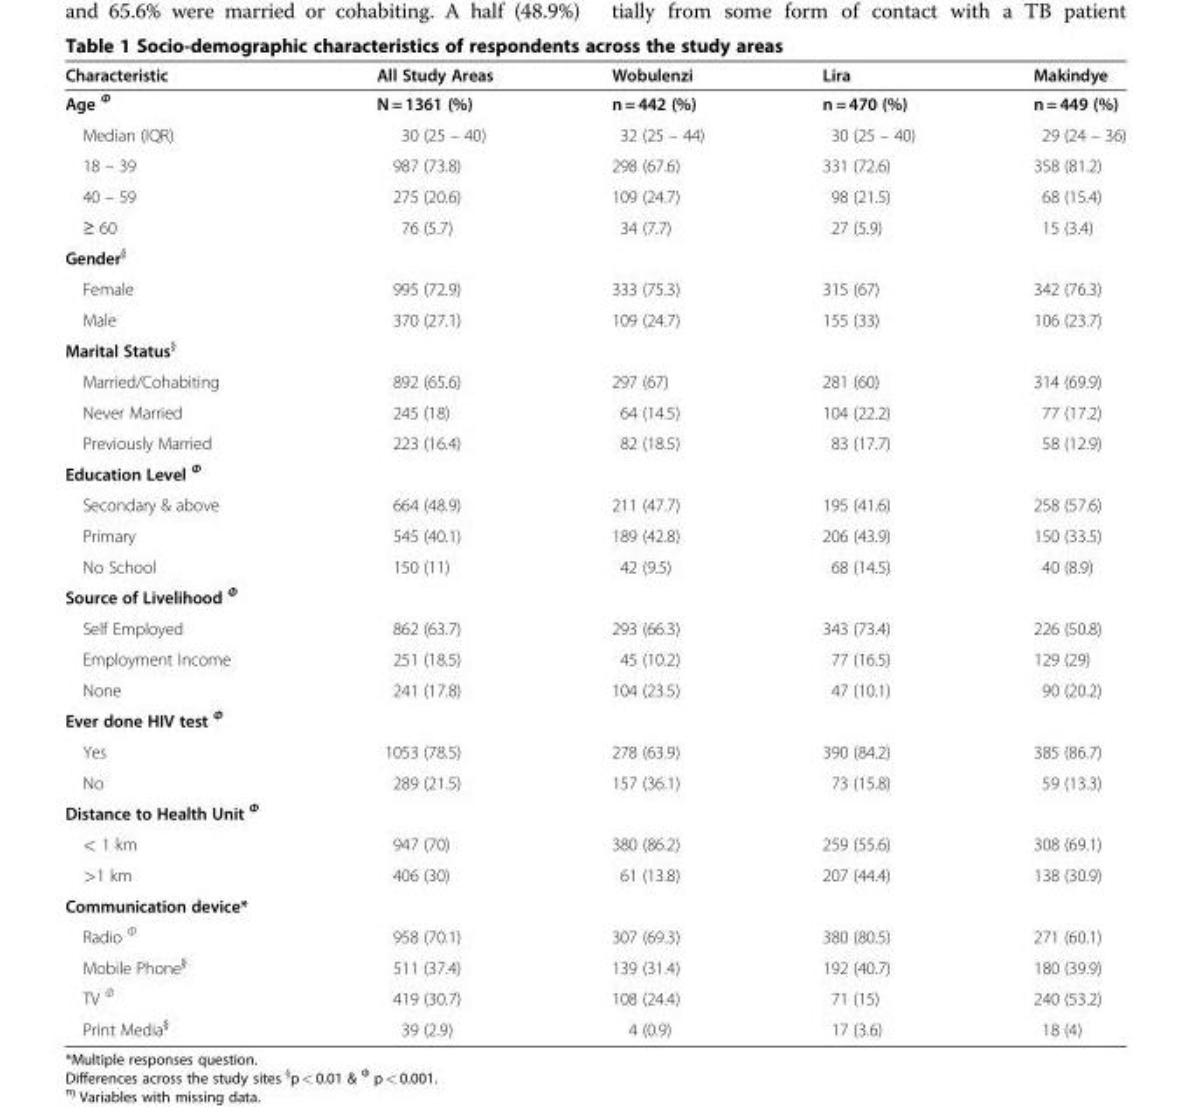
<table><thead><tr><td>Characteristic</td><td>All Study Areas</td><td>Wobulenzi</td><td>Lira</td><td>Makindye</td></tr></thead><tbody><tr><td>Age <sup>Φ</sup></td><td>N = 1361 (%)</td><td>n = 442 (%)</td><td>n = 470 (%)</td><td>n = 449 (%)</td></tr><tr><td>Median (IQR)</td><td>30 (25 – 40)</td><td>32 (25 – 44)</td><td>30 (25 – 40)</td><td>29 (24 – 36)</td></tr><tr><td>18 – 39</td><td>987 (73.8)</td><td>298 (67.6)</td><td>331 (72.6)</td><td>358 (81.2)</td></tr><tr><td>40 – 59</td><td>275 (20.6)</td><td>109 (24.7)</td><td>98 (21.5)</td><td>68 (15.4)</td></tr><tr><td>≥ 60</td><td>76 (5.7)</td><td>34 (7.7)</td><td>27 (5.9)</td><td>15 (3.4)</td></tr><tr><td colspan="5">Gender<sup>§</sup></td></tr><tr><td>Female</td><td>995 (72.9)</td><td>333 (75.3)</td><td>315 (67)</td><td>342 (76.3)</td></tr><tr><td>Male</td><td>370 (27.1)</td><td>109 (24.7)</td><td>155 (33)</td><td>106 (23.7)</td></tr><tr><td colspan="5">Marital Status<sup>§</sup></td></tr><tr><td>Married/Cohabiting</td><td>892 (65.6)</td><td>297 (67)</td><td>281 (60)</td><td>314 (69.9)</td></tr><tr><td>Never Married</td><td>245 (18)</td><td>64 (14.5)</td><td>104 (22.2)</td><td>77 (17.2)</td></tr><tr><td>Previously Married</td><td>223 (16.4)</td><td>82 (18.5)</td><td>83 (17.7)</td><td>58 (12.9)</td></tr><tr><td colspan="5">Education Level <sup>Φ</sup></td></tr><tr><td>Secondary &amp; above</td><td>664 (48.9)</td><td>211 (47.7)</td><td>195 (41.6)</td><td>258 (57.6)</td></tr><tr><td>Primary</td><td>545 (40.1)</td><td>189 (42.8)</td><td>206 (43.9)</td><td>150 (33.5)</td></tr><tr><td>No School</td><td>150 (11)</td><td>42 (9.5)</td><td>68 (14.5)</td><td>40 (8.9)</td></tr><tr><td colspan="5">Source of Livelihood <sup>Φ</sup></td></tr><tr><td>Self Employed</td><td>862 (63.7)</td><td>293 (66.3)</td><td>343 (73.4)</td><td>226 (50.8)</td></tr><tr><td>Employment Income</td><td>251 (18.5)</td><td>45 (10.2)</td><td>77 (16.5)</td><td>129 (29)</td></tr><tr><td>None</td><td>241 (17.8)</td><td>104 (23.5)</td><td>47 (10.1)</td><td>90 (20.2)</td></tr><tr><td colspan="5">Ever done HIV test <sup>Φ</sup></td></tr><tr><td>Yes</td><td>1053 (78.5)</td><td>278 (63.9)</td><td>390 (84.2)</td><td>385 (86.7)</td></tr><tr><td>No</td><td>289 (21.5)</td><td>157 (36.1)</td><td>73 (15.8)</td><td>59 (13.3)</td></tr><tr><td colspan="5">Distance to Health Unit <sup>Φ</sup></td></tr><tr><td>&lt; 1 km</td><td>947 (70)</td><td>380 (86.2)</td><td>259 (55.6)</td><td>308 (69.1)</td></tr><tr><td>&gt;1 km</td><td>406 (30)</td><td>61 (13.8)</td><td>207 (44.4)</td><td>138 (30.9)</td></tr><tr><td colspan="5">Communication device*</td></tr><tr><td>Radio <sup>Φ</sup></td><td>958 (70.1)</td><td>307 (69.3)</td><td>380 (80.5)</td><td>271 (60.1)</td></tr><tr><td>Mobile Phone<sup>§</sup></td><td>511 (37.4)</td><td>139 (31.4)</td><td>192 (40.7)</td><td>180 (39.9)</td></tr><tr><td>TV <sup>Φ</sup></td><td>419 (30.7)</td><td>108 (24.4)</td><td>71 (15)</td><td>240 (53.2)</td></tr><tr><td>Print Media<sup>§</sup></td><td>39 (2.9)</td><td>4 (0.9)</td><td>17 (3.6)</td><td>18 (4)</td></tr></tbody></table>